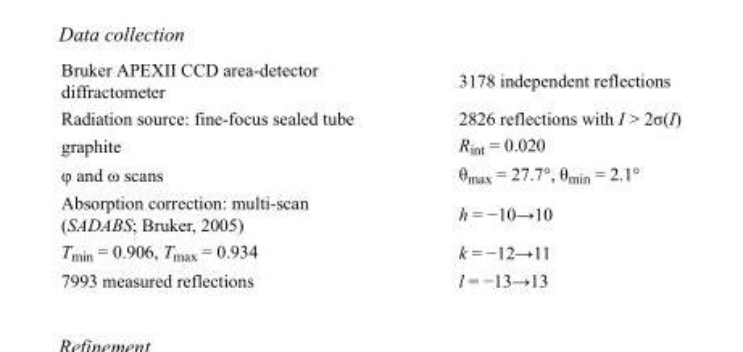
<table><tbody><tr><td>Bruker APEXII CCD area-detector diffractometer</td><td>3178 independent reflections</td></tr><tr><td>Radiation source: fine-focus sealed tube</td><td>2826 reflections with I &gt; 2σ(I)</td></tr><tr><td>graphite</td><td>R<sub>int</sub> = 0.020</td></tr><tr><td>φ and ω scans</td><td>θ<sub>max</sub> = 27.7°, θ<sub>min</sub> = 2.1°</td></tr><tr><td>Absorption correction: multi-scan (SADABS; Bruker, 2005)</td><td>h = −10→10</td></tr><tr><td>T<sub>min</sub> = 0.906, T<sub>max</sub> = 0.934</td><td>k = −12→11</td></tr><tr><td>7993 measured reflections</td><td>l = −13→13</td></tr></tbody></table>